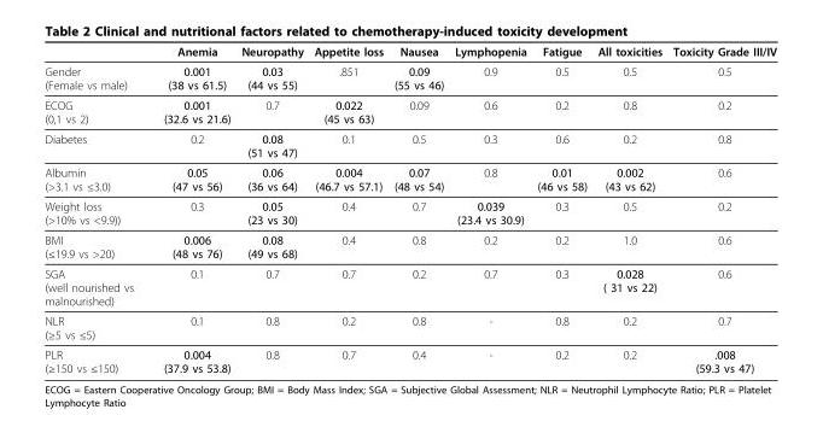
<table><thead><tr><td></td><td>Anemia</td><td>Neuropathy</td><td>Appetite loss</td><td>Nausea</td><td>Lymphopenia</td><td>Fatigue</td><td>All toxicities</td><td>Toxicity Grade III/IV</td></tr></thead><tbody><tr><td>Gender (Female vs male)</td><td>0.001 (38 vs 61.5)</td><td>0.03 (44 vs 55)</td><td>.851</td><td>0.09 (55 vs 46)</td><td>0.9</td><td>0.5</td><td>0.5</td><td>0.5</td></tr><tr><td>ECOG (0,1 vs 2)</td><td>0.001 (32.6 vs 21.6)</td><td>0.7</td><td>0.022 (45 vs 63)</td><td>0.09</td><td>0.6</td><td>0.2</td><td>0.8</td><td>0.2</td></tr><tr><td>Diabetes</td><td>0.2</td><td>0.08 (51 vs 47)</td><td>0.1</td><td>0.5</td><td>0.3</td><td>0.6</td><td>0.2</td><td>0.8</td></tr><tr><td>Albumin (&gt;3.1 vs ≤3.0)</td><td>0.05 (47 vs 56)</td><td>0.06 (36 vs 64)</td><td>0.004 (46.7 vs 57.1)</td><td>0.07 (48 vs 54)</td><td>0.8</td><td>0.01 (46 vs 58)</td><td>0.002 (43 vs 62)</td><td>0.6</td></tr><tr><td>Weight loss (&gt;10% vs &lt;9.9))</td><td>0.3</td><td>0.05 (23 vs 30)</td><td>0.4</td><td>0.7</td><td>0.039 (23.4 vs 30.9)</td><td>0.3</td><td>0.5</td><td>0.2</td></tr><tr><td>BMI (≤19.9 vs &gt;20)</td><td>0.006 (48 vs 76)</td><td>0.08 (49 vs 68)</td><td>0.4</td><td>0.8</td><td>0.2</td><td>0.2</td><td>1.0</td><td>0.6</td></tr><tr><td>SGA (well nourished vs malnourished)</td><td>0.1</td><td>0.7</td><td>0.7</td><td>0.2</td><td>0.7</td><td>0.3</td><td>0.028 ( 31 vs 22)</td><td>0.6</td></tr><tr><td>NLR (≥5 vs ≤5)</td><td>0.1</td><td>0.8</td><td>0.2</td><td>0.8</td><td>-</td><td>0.8</td><td>0.2</td><td>0.7</td></tr><tr><td>PLR (≥150 vs ≤150)</td><td>0.004 (37.9 vs 53.8)</td><td>0.8</td><td>0.7</td><td>0.4</td><td>-</td><td>0.2</td><td>0.2</td><td>.008 (59.3 vs 47)</td></tr></tbody></table>